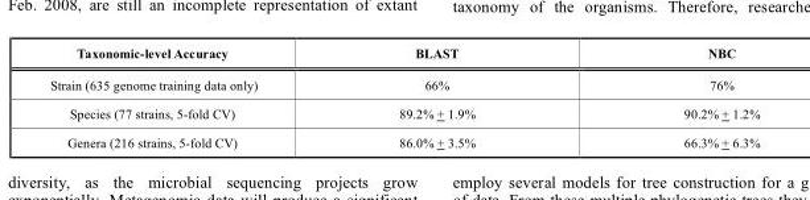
<table><thead><tr><td>Taxonomic-level Accuracy</td><td>BLAST</td><td>NBC</td></tr></thead><tbody><tr><td>Strain (635 genome training data only)</td><td>66%</td><td>76%</td></tr><tr><td>Species (77 strains, 5-fold CV)</td><td>89.2% + 1.9%</td><td>90.2% + 1.2%</td></tr><tr><td>Genera (216 strains, 5-fold CV)</td><td>86.0% + 3.5%</td><td>66.3% + 6.3%</td></tr></tbody></table>